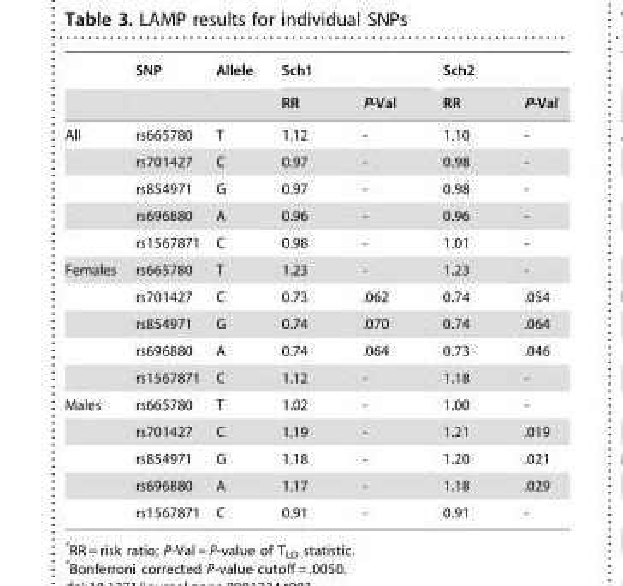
<table><thead><tr><td rowspan="2"></td><td rowspan="2">SNP</td><td rowspan="2">Allele</td><td colspan="2">Sch1</td><td colspan="2">Sch2</td></tr><tr><td>RR</td><td>P-Val</td><td>RR</td><td>P-Val</td></tr></thead><tbody><tr><td rowspan="5">All</td><td>rs665780</td><td>T</td><td>1.12</td><td>-</td><td>1.10</td><td>-</td></tr><tr><td>rs701427</td><td>C</td><td>0.97</td><td>-</td><td>0.98</td><td>-</td></tr><tr><td>rs854971</td><td>G</td><td>0.97</td><td>-</td><td>0.98</td><td>-</td></tr><tr><td>rs696880</td><td>A</td><td>0.96</td><td>-</td><td>0.96</td><td>-</td></tr><tr><td>rs1567871</td><td>C</td><td>0.98</td><td>-</td><td>1.01</td><td>-</td></tr><tr><td rowspan="5">Females</td><td>rs665780</td><td>T</td><td>1.23</td><td>-</td><td>1.23</td><td>-</td></tr><tr><td>rs701427</td><td>C</td><td>0.73</td><td>.062</td><td>0.74</td><td>.054</td></tr><tr><td>rs854971</td><td>G</td><td>0.74</td><td>.070</td><td>0.74</td><td>.064</td></tr><tr><td>rs696880</td><td>A</td><td>0.74</td><td>.064</td><td>0.73</td><td>.046</td></tr><tr><td>rs1567871</td><td>C</td><td>1.12</td><td>-</td><td>1.18</td><td>-</td></tr><tr><td rowspan="5">Males</td><td>rs665780</td><td>T</td><td>1.02</td><td>-</td><td>1.00</td><td>-</td></tr><tr><td>rs701427</td><td>C</td><td>1.19</td><td>-</td><td>1.21</td><td>.019</td></tr><tr><td>rs854971</td><td>G</td><td>1.18</td><td>-</td><td>1.20</td><td>.021</td></tr><tr><td>rs696880</td><td>A</td><td>1.17</td><td>-</td><td>1.18</td><td>.029</td></tr><tr><td>rs1567871</td><td>C</td><td>0.91</td><td>-</td><td>0.91</td><td>-</td></tr></tbody></table>